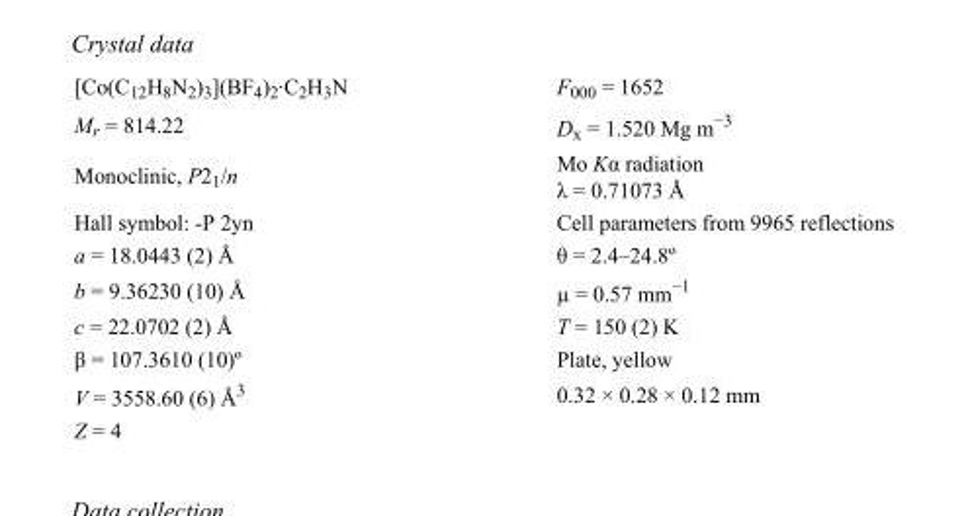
<table><tbody><tr><td>[Co(C<sub>12</sub>H<sub>8</sub>N<sub>2</sub>)<sub>3</sub>](BF<sub>4</sub>)<sub>2</sub>·C<sub>2</sub>H<sub>3</sub>N</td><td>F<sub>000</sub> = 1652</td></tr><tr><td>M<sub>r</sub> = 814.22</td><td>D<sub>x</sub> = 1.520 Mg m<sup>−3</sup></td></tr><tr><td>Monoclinic, P2<sub>1</sub>/n</td><td>Mo Kα radiation λ = 0.71073 Å</td></tr><tr><td>Hall symbol: -P 2yn</td><td>Cell parameters from 9965 reflections</td></tr><tr><td>a = 18.0443 (2) Å</td><td>θ = 2.4–24.8º</td></tr><tr><td>b = 9.36230 (10) Å</td><td>µ = 0.57 mm<sup>−1</sup></td></tr><tr><td>c = 22.0702 (2) Å</td><td>T = 150 (2) K</td></tr><tr><td>β = 107.3610 (10)º</td><td>Plate, yellow</td></tr><tr><td>V = 3558.60 (6) Å<sup>3</sup></td><td>0.32 × 0.28 × 0.12 mm</td></tr><tr><td>Z = 4</td><td></td></tr></tbody></table>